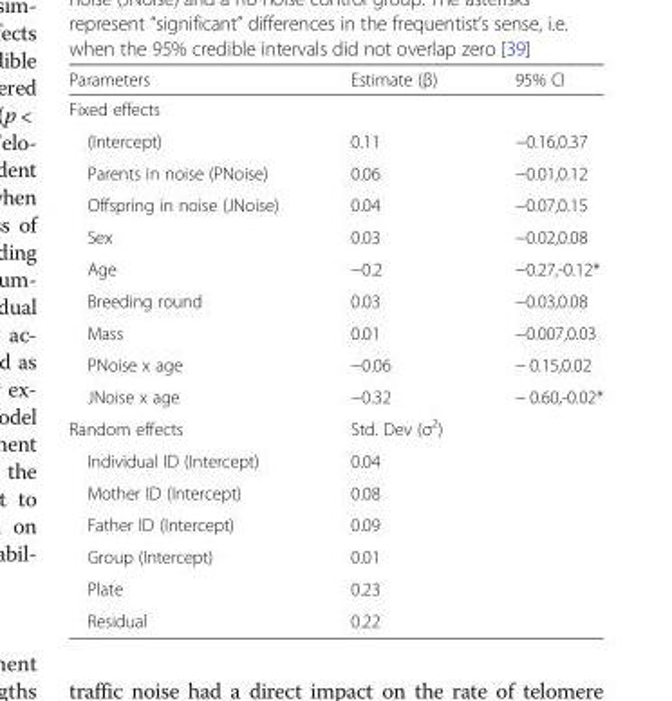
<table><thead><tr><td>Parameters</td><td>Estimate (β)</td><td>95% CI</td></tr></thead><tbody><tr><td colspan="3">Fixed effects</td></tr><tr><td>(Intercept)</td><td>0.11</td><td>−0.16,0.37</td></tr><tr><td>Parents in noise (PNoise)</td><td>0.06</td><td>−0.01,0.12</td></tr><tr><td>Offspring in noise (JNoise)</td><td>0.04</td><td>−0.07,0.15</td></tr><tr><td>Sex</td><td>0.03</td><td>−0.02,0.08</td></tr><tr><td>Age</td><td>−0.2</td><td>−0.27,-0.12*</td></tr><tr><td>Breeding round</td><td>0.03</td><td>−0.03,0.08</td></tr><tr><td>Mass</td><td>0.01</td><td>−0.007,0.03</td></tr><tr><td>PNoise x age</td><td>−0.06</td><td>− 0.15,0.02</td></tr><tr><td>JNoise x age</td><td>−0.32</td><td>− 0.60,-0.02*</td></tr><tr><td>Random effects</td><td>Std. Dev (σ<sup>2</sup>)</td><td></td></tr><tr><td>Individual ID (Intercept)</td><td>0.04</td><td></td></tr><tr><td>Mother ID (Intercept)</td><td>0.08</td><td></td></tr><tr><td>Father ID (Intercept)</td><td>0.09</td><td></td></tr><tr><td>Group (Intercept)</td><td>0.01</td><td></td></tr><tr><td>Plate</td><td>0.23</td><td></td></tr><tr><td>Residual</td><td>0.22</td><td></td></tr></tbody></table>